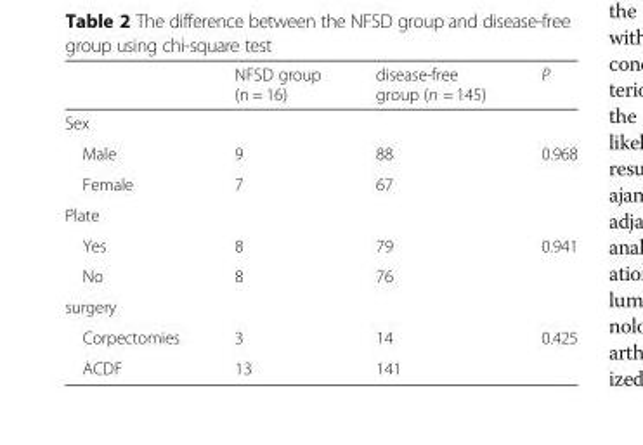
<table><thead><tr><td></td><td>NFSD group (n = 16)</td><td>disease-free group (n = 145)</td><td>P</td></tr></thead><tbody><tr><td colspan="4">Sex</td></tr><tr><td>Male</td><td>9</td><td>88</td><td>0.968</td></tr><tr><td>Female</td><td>7</td><td>67</td><td></td></tr><tr><td colspan="4">Plate</td></tr><tr><td>Yes</td><td>8</td><td>79</td><td>0.941</td></tr><tr><td>No</td><td>8</td><td>76</td><td></td></tr><tr><td colspan="4">surgery</td></tr><tr><td>Corpectomies</td><td>3</td><td>14</td><td>0.425</td></tr><tr><td>ACDF</td><td>13</td><td>141</td><td></td></tr></tbody></table>